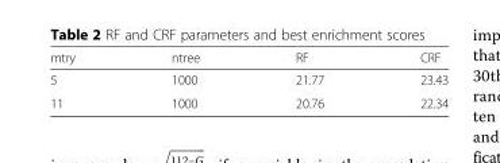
<table><thead><tr><td>mtry</td><td>ntree</td><td>RF</td><td>CRF</td></tr></thead><tbody><tr><td>5</td><td>1000</td><td>21.77</td><td>23.43</td></tr><tr><td>11</td><td>1000</td><td>20.76</td><td>22.34</td></tr></tbody></table>